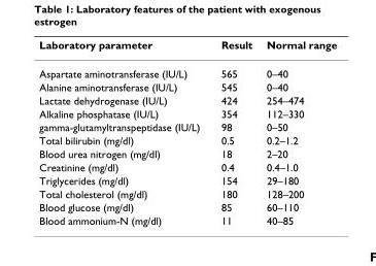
<table><thead><tr><td>Laboratory parameter</td><td>Result</td><td>Normal range</td></tr></thead><tbody><tr><td>Aspartate aminotransferase (IU/L)</td><td>565</td><td>0–40</td></tr><tr><td>Alanine aminotransferase (IU/L)</td><td>545</td><td>0–40</td></tr><tr><td>Lactate dehydrogenase (IU/L)</td><td>424</td><td>254–474</td></tr><tr><td>Alkaline phosphatase (IU/L)</td><td>354</td><td>112–330</td></tr><tr><td>gamma-glutamyltranspeptidase (IU/L)</td><td>98</td><td>0–50</td></tr><tr><td>Total bilirubin (mg/dl)</td><td>0.5</td><td>0.2–1.2</td></tr><tr><td>Blood urea nitrogen (mg/dl)</td><td>18</td><td>2–20</td></tr><tr><td>Creatinine (mg/dl)</td><td>0.4</td><td>0.4–1.0</td></tr><tr><td>Triglycerides (mg/dl)</td><td>154</td><td>29–180</td></tr><tr><td>Total cholesterol (mg/dl)</td><td>180</td><td>128–200</td></tr><tr><td>Blood glucose (mg/dl)</td><td>85</td><td>60–110</td></tr><tr><td>Blood ammonium-N (mg/dl)</td><td>11</td><td>40–85</td></tr></tbody></table>